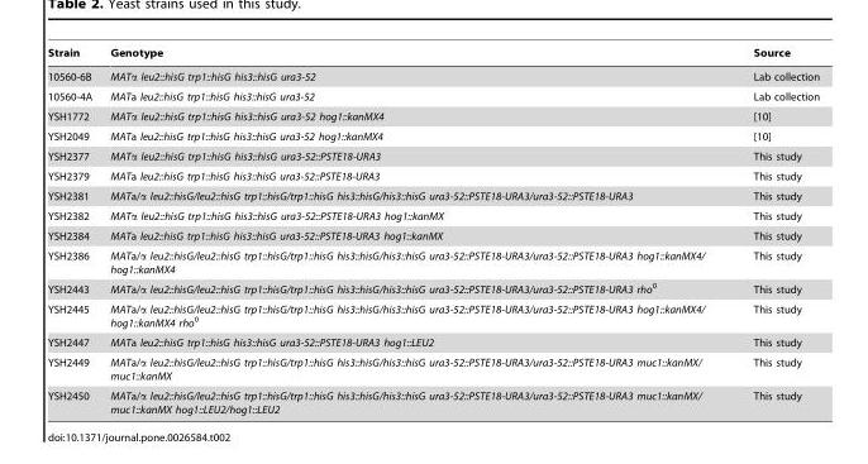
<table><thead><tr><td>Strain</td><td>Genotype</td><td>Source</td></tr></thead><tbody><tr><td>10560-6B</td><td>MATα leu2::hisG trp1::hisG his3::hisG ura3-52</td><td>Lab collection</td></tr><tr><td>10560-4A</td><td>MATa leu2::hisG trp1::hisG his3::hisG ura3-52</td><td>Lab collection</td></tr><tr><td>YSH1772</td><td>MATα leu2::hisG trp1::hisG his3::hisG ura3-52 hog1::kanMX4</td><td>[10]</td></tr><tr><td>YSH2049</td><td>MATa leu2::hisG trp1::hisG his3::hisG ura3-52 hog1::kanMX4</td><td>[10]</td></tr><tr><td>YSH2377</td><td>MATα leu2::hisG trp1::hisG his3::hisG ura3-52::PSTE18-URA3</td><td>This study</td></tr><tr><td>YSH2379</td><td>MATa leu2::hisG trp1::hisG his3::hisG ura3-52::PSTE18-URA3</td><td>This study</td></tr><tr><td>YSH2381</td><td>MATa/α leu2::hisG/leu2::hisG trp1::hisG/trp1::hisG his3::hisG/his3::hisG ura3-52::PSTE18-URA3/ura3-52::PSTE18-URA3</td><td>This study</td></tr><tr><td>YSH2382</td><td>MATα leu2::hisG trp1::hisG his3::hisG ura3-52::PSTE18-URA3 hog1::kanMX</td><td>This study</td></tr><tr><td>YSH2384</td><td>MATa leu2::hisG trp1::hisG his3::hisG ura3-52::PSTE18-URA3 hog1::kanMX</td><td>This study</td></tr><tr><td>YSH2386</td><td>MATa/α leu2::hisG/leu2::hisG trp1::hisG/trp1::hisG his3::hisG/his3::hisG ura3-52::PSTE18-URA3/ura3-52::PSTE18-URA3 hog1::kanMX4/ hog1::kanMX4</td><td>This study</td></tr><tr><td>YSH2443</td><td>MATa/α leu2::hisG/leu2::hisG trp1::hisG/trp1::hisG his3::hisG/his3::hisG ura3-52::PSTE18-URA3/ura3-52::PSTE18-URA3 rho<sup>0</sup></td><td>This study</td></tr><tr><td>YSH2445</td><td>MATa/α leu2::hisG/leu2::hisG trp1::hisG/trp1::hisG his3::hisG/his3::hisG ura3-52::PSTE18-URA3/ura3-52::PSTE18-URA3 hog1::kanMX4/ hog1::kanMX4 rho<sup>0</sup></td><td>This study</td></tr><tr><td>YSH2447</td><td>MATa leu2::hisG trp1::hisG his3::hisG ura3-52::PSTE18-URA3 hog1::LEU2</td><td>This study</td></tr><tr><td>YSH2449</td><td>MATa/α leu2::hisG/leu2::hisG trp1::hisG/trp1::hisG his3::hisG/his3::hisG ura3-52::PSTE18-URA3/ura3-52::PSTE18-URA3 muc1::kanMX/ muc1::kanMX</td><td>This study</td></tr><tr><td>YSH2450</td><td>MATa/α leu2::hisG/leu2::hisG trp1::hisG/trp1::hisG his3::hisG/his3::hisG ura3-52::PSTE18-URA3/ura3-52::PSTE18-URA3 muc1::kanMX/ muc1::kanMX hog1::LEU2/hog1::LEU2</td><td>This study</td></tr></tbody></table>